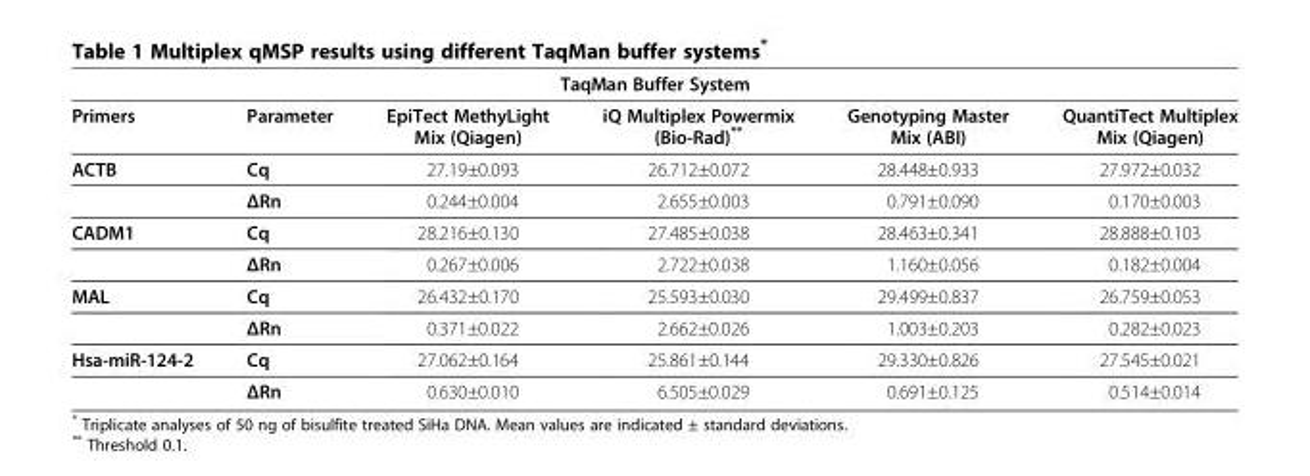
<table><thead><tr><td colspan="6">TaqMan Buffer System</td></tr><tr><td>Primers</td><td>Parameter</td><td>EpiTect MethyLight Mix (Qiagen)</td><td>iQ Multiplex Powermix (Bio-Rad)**</td><td>Genotyping Master Mix (ABI)</td><td>QuantiTect Multiplex Mix (Qiagen)</td></tr></thead><tbody><tr><td rowspan="2">ACTB</td><td>Cq</td><td>27.19±0.093</td><td>26.712±0.072</td><td>28.448±0.933</td><td>27.972±0.032</td></tr><tr><td>ΔRn</td><td>0.244±0.004</td><td>2.655±0.003</td><td>0.791±0.090</td><td>0.170±0.003</td></tr><tr><td rowspan="2">CADM1</td><td>Cq</td><td>28.216±0.130</td><td>27.485±0.038</td><td>28.463±0.341</td><td>28.888±0.103</td></tr><tr><td>ΔRn</td><td>0.267±0.006</td><td>2.722±0.038</td><td>1.160±0.056</td><td>0.182±0.004</td></tr><tr><td rowspan="2">MAL</td><td>Cq</td><td>26.432±0.170</td><td>25.593±0.030</td><td>29.499±0.837</td><td>26.759±0.053</td></tr><tr><td>ΔRn</td><td>0.371±0.022</td><td>2.662±0.026</td><td>1.003±0.203</td><td>0.282±0.023</td></tr><tr><td rowspan="2">Hsa-miR-124-2</td><td>Cq</td><td>27.062±0.164</td><td>25.861±0.144</td><td>29.330±0.826</td><td>27.545±0.021</td></tr><tr><td>ΔRn</td><td>0.630±0.010</td><td>6.505±0.029</td><td>0.691±0.125</td><td>0.514±0.014</td></tr></tbody></table>